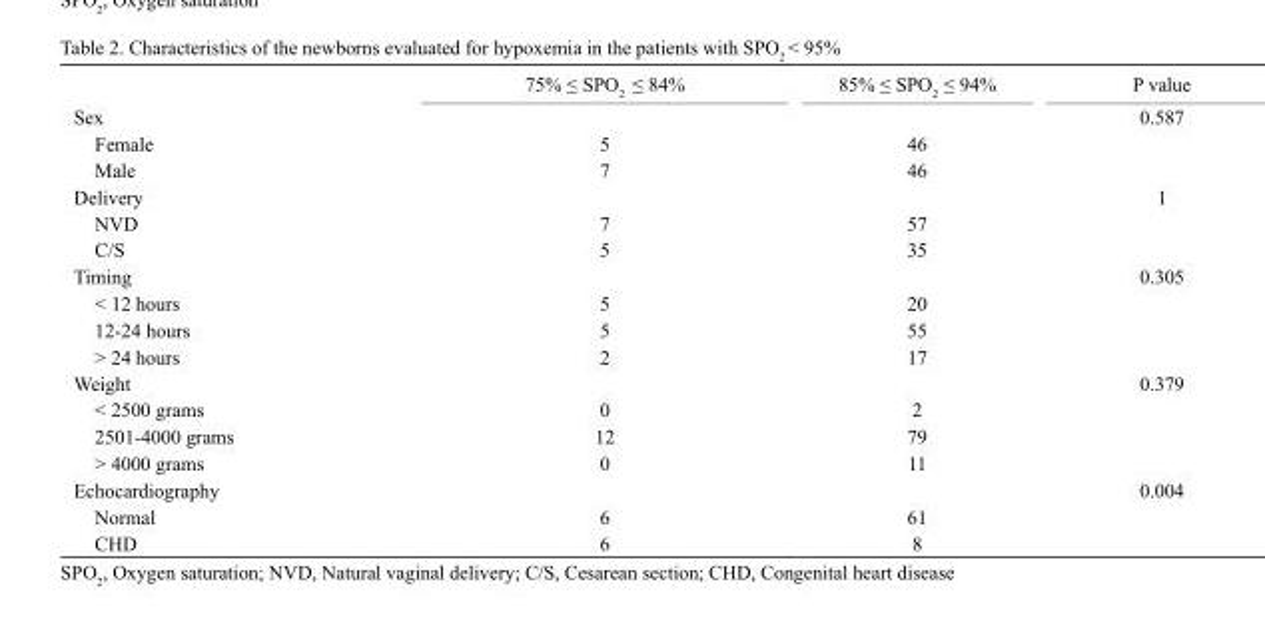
<table><thead><tr><td></td><td>75% ≤ SPO<sub>2</sub> ≤ 84%</td><td>85% ≤ SPO<sub>2</sub> ≤ 94%</td><td>P value</td></tr></thead><tbody><tr><td>Sex</td><td></td><td></td><td>0.587</td></tr><tr><td>Female</td><td>5</td><td>46</td><td></td></tr><tr><td>Male</td><td>7</td><td>46</td><td></td></tr><tr><td>Delivery</td><td></td><td></td><td>1</td></tr><tr><td>NVD</td><td>7</td><td>57</td><td></td></tr><tr><td>C/S</td><td>5</td><td>35</td><td></td></tr><tr><td>Timing</td><td></td><td></td><td>0.305</td></tr><tr><td>&lt; 12 hours</td><td>5</td><td>20</td><td></td></tr><tr><td>12-24 hours</td><td>5</td><td>55</td><td></td></tr><tr><td>&gt; 24 hours</td><td>2</td><td>17</td><td></td></tr><tr><td>Weight</td><td></td><td></td><td>0.379</td></tr><tr><td>&lt; 2500 grams</td><td>0</td><td>2</td><td></td></tr><tr><td>2501-4000 grams</td><td>12</td><td>79</td><td></td></tr><tr><td>&gt; 4000 grams</td><td>0</td><td>11</td><td></td></tr><tr><td>Echocardiography</td><td></td><td></td><td>0.004</td></tr><tr><td>Normal</td><td>6</td><td>61</td><td></td></tr><tr><td>CHD</td><td>6</td><td>8</td><td></td></tr></tbody></table>